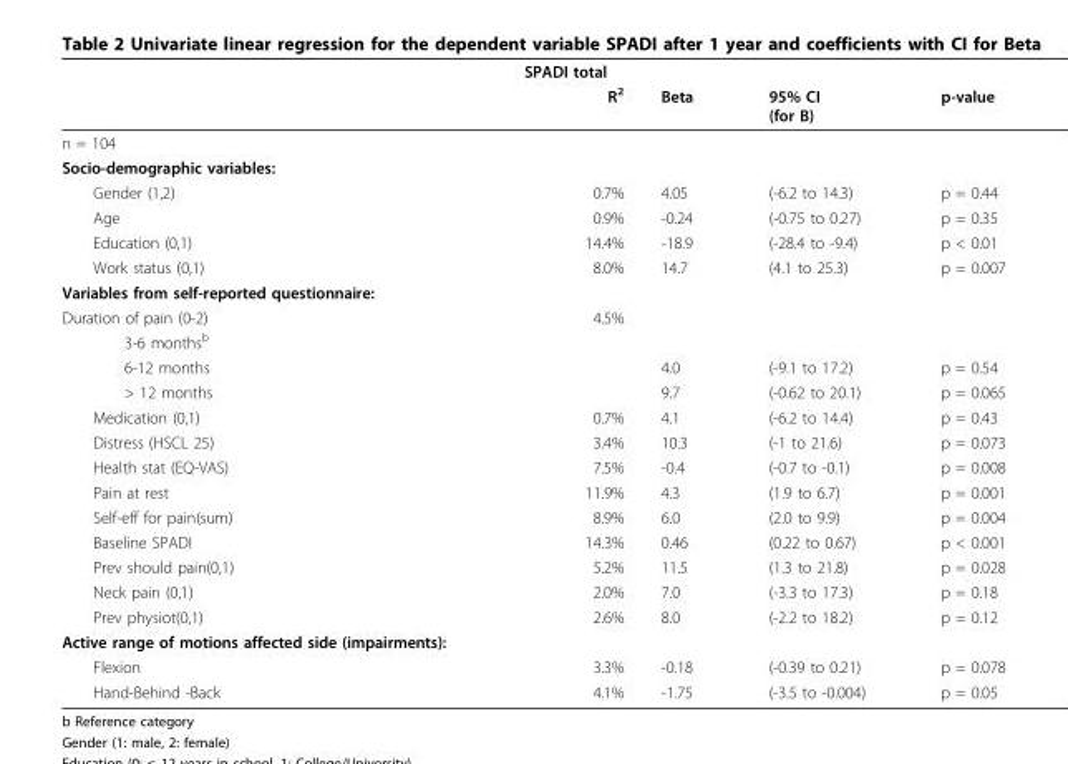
<table><thead><tr><td colspan="5">SPADI total</td></tr><tr><td></td><td>R<sup>2</sup></td><td>Beta</td><td>95% CI (for B)</td><td>p-value</td></tr></thead><tbody><tr><td colspan="5">n = 104</td></tr><tr><td colspan="5">Socio-demographic variables:</td></tr><tr><td>Gender (1,2)</td><td>0.7%</td><td>4.05</td><td>(-6.2 to 14.3)</td><td>p = 0.44</td></tr><tr><td>Age</td><td>0.9%</td><td>-0.24</td><td>(-0.75 to 0.27)</td><td>p = 0.35</td></tr><tr><td>Education (0,1)</td><td>14.4%</td><td>-18.9</td><td>(-28.4 to -9.4)</td><td>p &lt; 0.01</td></tr><tr><td>Work status (0,1)</td><td>8.0%</td><td>14.7</td><td>(4.1 to 25.3)</td><td>p = 0.007</td></tr><tr><td colspan="5">Variables from self-reported questionnaire:</td></tr><tr><td>Duration of pain (0-2)</td><td>4.5%</td><td></td><td></td><td></td></tr><tr><td colspan="5">3-6 months<sup>b</sup></td></tr><tr><td>6-12 months</td><td></td><td>4.0</td><td>(-9.1 to 17.2)</td><td>p = 0.54</td></tr><tr><td>&gt; 12 months</td><td></td><td>9.7</td><td>(-0.62 to 20.1)</td><td>p = 0.065</td></tr><tr><td>Medication (0,1)</td><td>0.7%</td><td>4.1</td><td>(-6.2 to 14.4)</td><td>p = 0.43</td></tr><tr><td>Distress (HSCL 25)</td><td>3.4%</td><td>10.3</td><td>(-1 to 21.6)</td><td>p = 0.073</td></tr><tr><td>Health stat (EQ-VAS)</td><td>7.5%</td><td>-0.4</td><td>(-0.7 to -0.1)</td><td>p = 0.008</td></tr><tr><td>Pain at rest</td><td>11.9%</td><td>4.3</td><td>(1.9 to 6.7)</td><td>p = 0.001</td></tr><tr><td>Self-eff for pain(sum)</td><td>8.9%</td><td>6.0</td><td>(2.0 to 9.9)</td><td>p = 0.004</td></tr><tr><td>Baseline SPADI</td><td>14.3%</td><td>0.46</td><td>(0.22 to 0.67)</td><td>p &lt; 0.001</td></tr><tr><td>Prev should pain(0,1)</td><td>5.2%</td><td>11.5</td><td>(1.3 to 21.8)</td><td>p = 0.028</td></tr><tr><td>Neck pain (0,1)</td><td>2.0%</td><td>7.0</td><td>(-3.3 to 17.3)</td><td>p = 0.18</td></tr><tr><td>Prev physiot(0,1)</td><td>2.6%</td><td>8.0</td><td>(-2.2 to 18.2)</td><td>p = 0.12</td></tr><tr><td colspan="5">Active range of motions affected side (impairments):</td></tr><tr><td>Flexion</td><td>3.3%</td><td>-0.18</td><td>(-0.39 to 0.21)</td><td>p = 0.078</td></tr><tr><td>Hand-Behind -Back</td><td>4.1%</td><td>-1.75</td><td>(-3.5 to -0.004)</td><td>p = 0.05</td></tr></tbody></table>